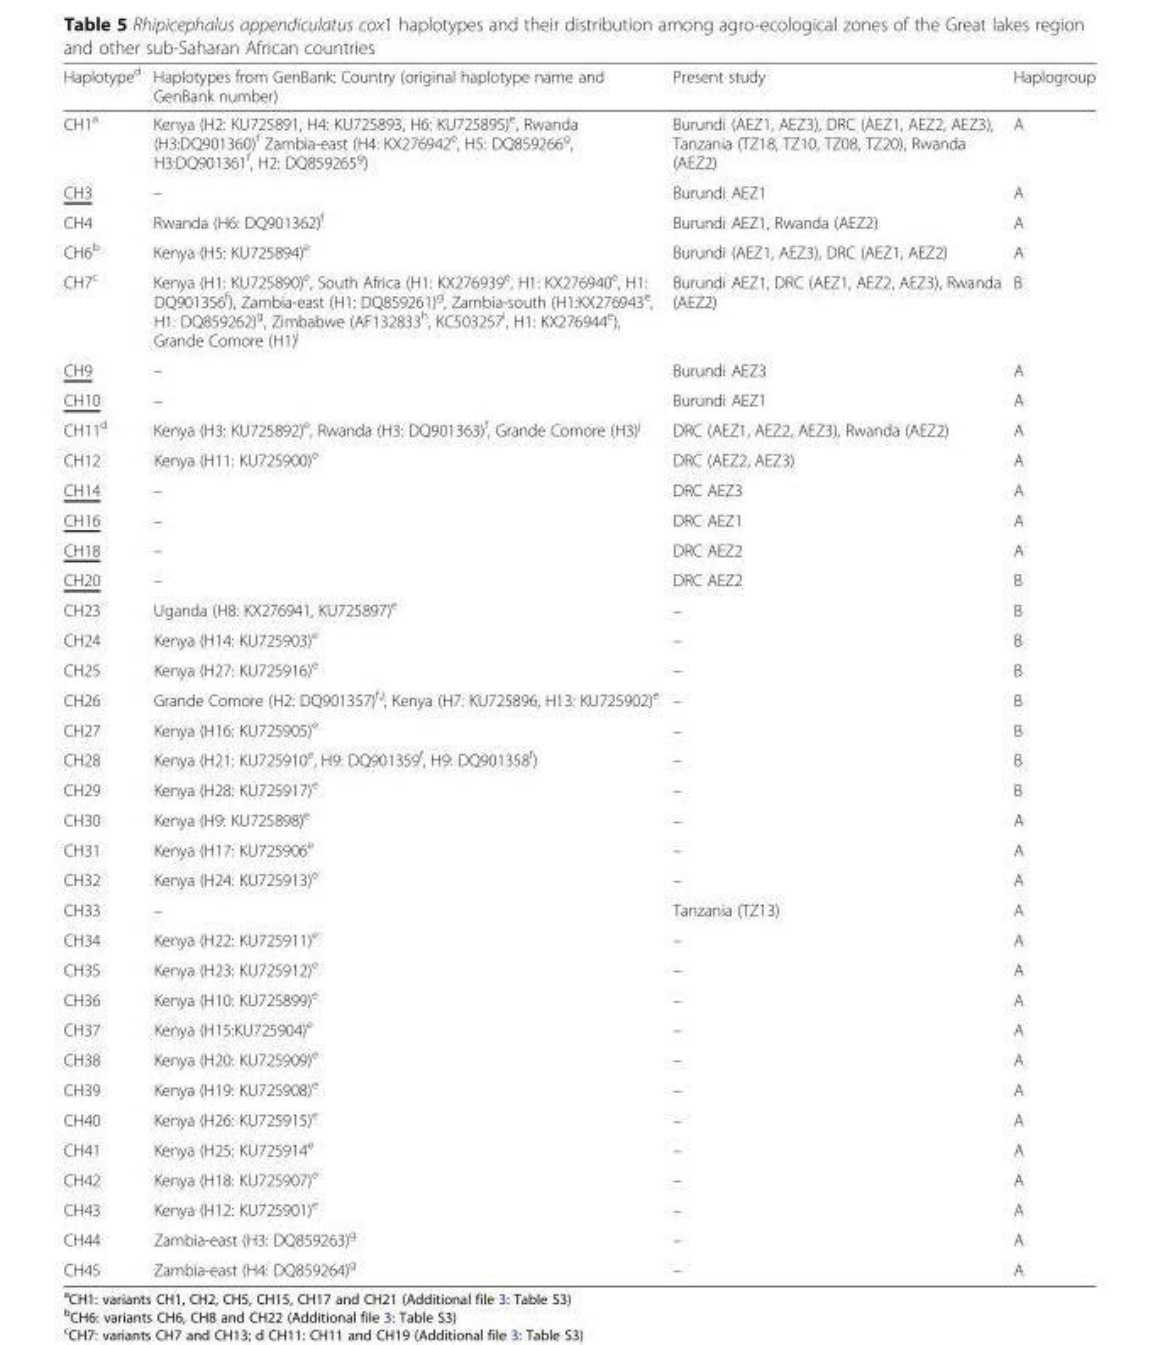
<table><thead><tr><td>Haplotype<sup>d</sup></td><td>Haplotypes from GenBank: Country (original haplotype name and GenBank number)</td><td>Present study</td><td>Haplogroup</td></tr></thead><tbody><tr><td>CH1<sup>a</sup></td><td>Kenya (H2: KU725891, H4: KU725893, H6: KU725895)<sup>e</sup>, Rwanda (H3:DQ901360)<sup>f</sup> Zambia-east (H4: KX276942<sup>e</sup>, H5: DQ859266<sup>g</sup>, H3:DQ901361<sup>f</sup>, H2: DQ859265<sup>g</sup>)</td><td>Burundi (AEZ1, AEZ3), DRC (AEZ1, AEZ2, AEZ3), Tanzania (TZ18, TZ10, TZ08, TZ20), Rwanda (AEZ2)</td><td>A</td></tr><tr><td>CH3</td><td>–</td><td>Burundi AEZ1</td><td>A</td></tr><tr><td>CH4</td><td>Rwanda (H6: DQ901362)<sup>f</sup></td><td>Burundi AEZ1, Rwanda (AEZ2)</td><td>A</td></tr><tr><td>CH6<sup>b</sup></td><td>Kenya (H5: KU725894)<sup>e</sup></td><td>Burundi (AEZ1, AEZ3), DRC (AEZ1, AEZ2)</td><td>A</td></tr><tr><td>CH7<sup>c</sup></td><td>Kenya (H1: KU725890)<sup>e</sup>, South Africa (H1: KX276939<sup>e</sup>, H1: KX276940<sup>e</sup>, H1: DQ901356<sup>f</sup>), Zambia-east (H1: DQ859261)<sup>g</sup>, Zambia-south (H1:KX276943<sup>e</sup>, H1: DQ859262)<sup>g</sup>, Zimbabwe (AF132833<sup>h</sup>, KC503257<sup>i</sup>, H1: KX276944<sup>e</sup>), Grande Comore (H1)<sup>j</sup></td><td>Burundi AEZ1, DRC (AEZ1, AEZ2, AEZ3), Rwanda (AEZ2)</td><td>B</td></tr><tr><td>CH9</td><td>–</td><td>Burundi AEZ3</td><td>A</td></tr><tr><td>CH10</td><td>–</td><td>Burundi AEZ1</td><td>A</td></tr><tr><td>CH11<sup>d</sup></td><td>Kenya (H3: KU725892)<sup>e</sup>, Rwanda (H3: DQ901363)<sup>f</sup>, Grande Comore (H3)<sup>j</sup></td><td>DRC (AEZ1, AEZ2, AEZ3), Rwanda (AEZ2)</td><td>A</td></tr><tr><td>CH12</td><td>Kenya (H11: KU725900)<sup>e</sup></td><td>DRC (AEZ2, AEZ3)</td><td>A</td></tr><tr><td>CH14</td><td>–</td><td>DRC AEZ3</td><td>A</td></tr><tr><td>CH16</td><td>–</td><td>DRC AEZ1</td><td>A</td></tr><tr><td>CH18</td><td>–</td><td>DRC AEZ2</td><td>A</td></tr><tr><td>CH20</td><td>–</td><td>DRC AEZ2</td><td>B</td></tr><tr><td>CH23</td><td>Uganda (H8: KX276941, KU725897)<sup>e</sup></td><td>–</td><td>B</td></tr><tr><td>CH24</td><td>Kenya (H14: KU725903)<sup>e</sup></td><td>–</td><td>B</td></tr><tr><td>CH25</td><td>Kenya (H27: KU725916)<sup>e</sup></td><td>–</td><td>B</td></tr><tr><td>CH26</td><td>Grande Comore (H2: DQ901357)<sup>f,j</sup>, Kenya (H7: KU725896, H13: KU725902)<sup>e</sup></td><td>–</td><td>B</td></tr><tr><td>CH27</td><td>Kenya (H16: KU725905)<sup>e</sup></td><td>–</td><td>B</td></tr><tr><td>CH28</td><td>Kenya (H21: KU725910<sup>e</sup>, H9: DQ901359<sup>f</sup>, H9: DQ901358<sup>f</sup>)</td><td>–</td><td>B</td></tr><tr><td>CH29</td><td>Kenya (H28: KU725917)<sup>e</sup></td><td>–</td><td>B</td></tr><tr><td>CH30</td><td>Kenya (H9: KU725898)<sup>e</sup></td><td>–</td><td>A</td></tr><tr><td>CH31</td><td>Kenya (H17: KU725906<sup>e</sup></td><td>–</td><td>A</td></tr><tr><td>CH32</td><td>Kenya (H24: KU725913)<sup>e</sup></td><td>–</td><td>A</td></tr><tr><td>CH33</td><td>–</td><td>Tanzania (TZ13)</td><td>A</td></tr><tr><td>CH34</td><td>Kenya (H22: KU725911)<sup>e</sup></td><td>–</td><td>A</td></tr><tr><td>CH35</td><td>Kenya (H23: KU725912)<sup>e</sup></td><td>–</td><td>A</td></tr><tr><td>CH36</td><td>Kenya (H10: KU725899)<sup>e</sup></td><td>–</td><td>A</td></tr><tr><td>CH37</td><td>Kenya (H15:KU725904)<sup>e</sup></td><td>–</td><td>A</td></tr><tr><td>CH38</td><td>Kenya (H20: KU725909)<sup>e</sup></td><td>–</td><td>A</td></tr><tr><td>CH39</td><td>Kenya (H19: KU725908)<sup>e</sup></td><td>–</td><td>A</td></tr><tr><td>CH40</td><td>Kenya (H26: KU725915)<sup>e</sup></td><td>–</td><td>A</td></tr><tr><td>CH41</td><td>Kenya (H25: KU725914<sup>e</sup></td><td>–</td><td>A</td></tr><tr><td>CH42</td><td>Kenya (H18: KU725907)<sup>e</sup></td><td>–</td><td>A</td></tr><tr><td>CH43</td><td>Kenya (H12: KU725901)<sup>e</sup></td><td>–</td><td>A</td></tr><tr><td>CH44</td><td>Zambia-east (H3: DQ859263)<sup>g</sup></td><td>–</td><td>A</td></tr><tr><td>CH45</td><td>Zambia-east (H4: DQ859264)<sup>g</sup></td><td>–</td><td>A</td></tr></tbody></table>